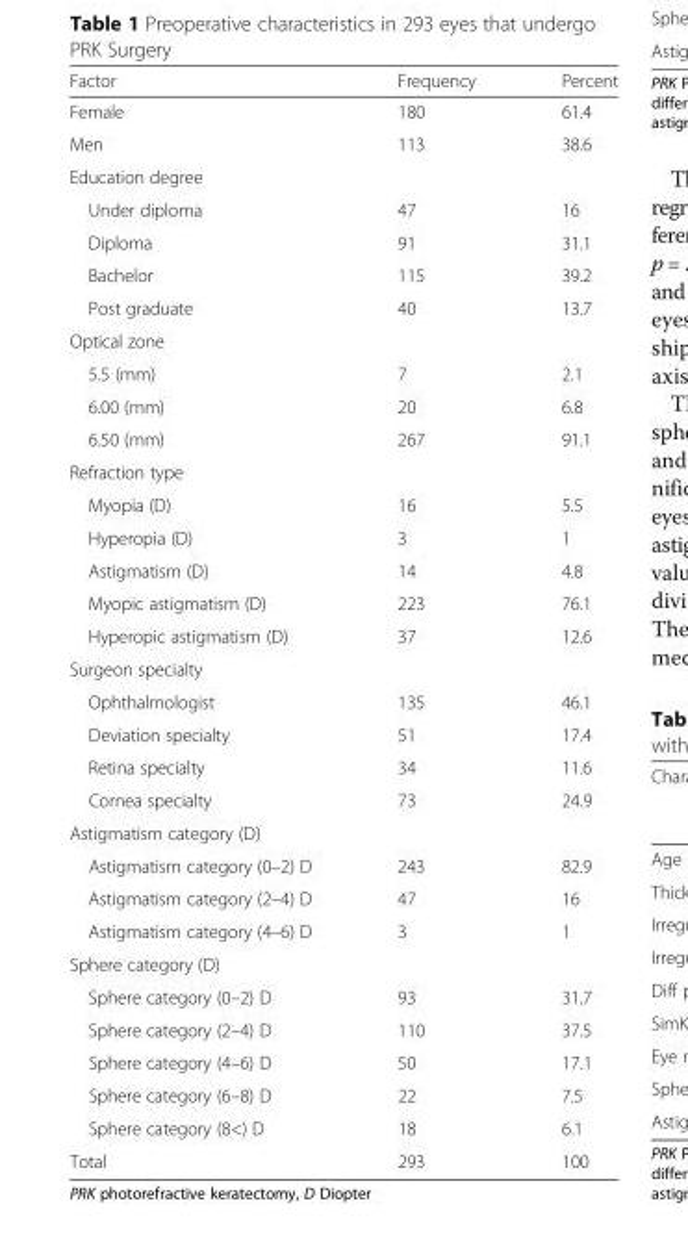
<table><thead><tr><td>Factor</td><td>Frequency</td><td>Percent</td></tr></thead><tbody><tr><td>Female</td><td>180</td><td>61.4</td></tr><tr><td>Men</td><td>113</td><td>38.6</td></tr><tr><td colspan="3">Education degree</td></tr><tr><td>Under diploma</td><td>47</td><td>16</td></tr><tr><td>Diploma</td><td>91</td><td>31.1</td></tr><tr><td>Bachelor</td><td>115</td><td>39.2</td></tr><tr><td>Post graduate</td><td>40</td><td>13.7</td></tr><tr><td colspan="3">Optical zone</td></tr><tr><td>5.5 (mm)</td><td>7</td><td>2.1</td></tr><tr><td>6.00 (mm)</td><td>20</td><td>6.8</td></tr><tr><td>6.50 (mm)</td><td>267</td><td>91.1</td></tr><tr><td colspan="3">Refraction type</td></tr><tr><td>Myopia (D)</td><td>16</td><td>5.5</td></tr><tr><td>Hyperopia (D)</td><td>3</td><td>1</td></tr><tr><td>Astigmatism (D)</td><td>14</td><td>4.8</td></tr><tr><td>Myopic astigmatism (D)</td><td>223</td><td>76.1</td></tr><tr><td>Hyperopic astigmatism (D)</td><td>37</td><td>12.6</td></tr><tr><td colspan="3">Surgeon specialty</td></tr><tr><td>Ophthalmologist</td><td>135</td><td>46.1</td></tr><tr><td>Deviation specialty</td><td>51</td><td>17.4</td></tr><tr><td>Retina specialty</td><td>34</td><td>11.6</td></tr><tr><td>Cornea specialty</td><td>73</td><td>24.9</td></tr><tr><td colspan="3">Astigmatism category (D)</td></tr><tr><td>Astigmatism category (0–2) D</td><td>243</td><td>82.9</td></tr><tr><td>Astigmatism category (2–4) D</td><td>47</td><td>16</td></tr><tr><td>Astigmatism category (4–6) D</td><td>3</td><td>1</td></tr><tr><td colspan="3">Sphere category (D)</td></tr><tr><td>Sphere category (0–2) D</td><td>93</td><td>31.7</td></tr><tr><td>Sphere category (2–4) D</td><td>110</td><td>37.5</td></tr><tr><td>Sphere category (4–6) D</td><td>50</td><td>17.1</td></tr><tr><td>Sphere category (6–8) D</td><td>22</td><td>7.5</td></tr><tr><td>Sphere category (8&lt;) D</td><td>18</td><td>6.1</td></tr><tr><td>Total</td><td>293</td><td>100</td></tr></tbody></table>